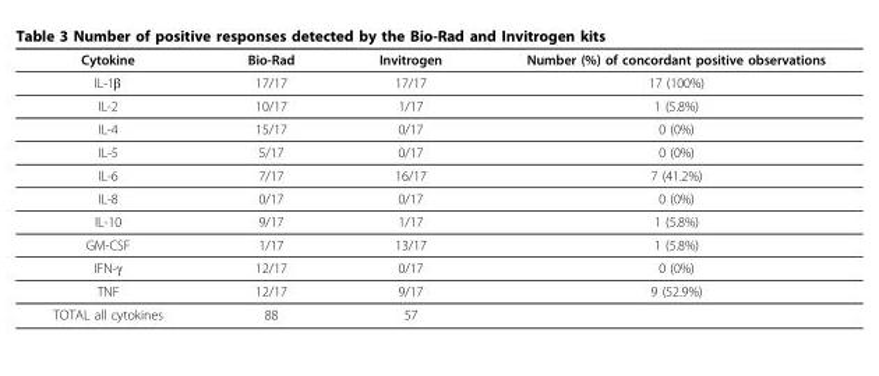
<table><thead><tr><td>Cytokine</td><td>Bio-Rad</td><td>Invitrogen</td><td>Number (%) of concordant positive observations</td></tr></thead><tbody><tr><td>IL-1β</td><td>17/17</td><td>17/17</td><td>17 (100%)</td></tr><tr><td>IL-2</td><td>10/17</td><td>1/17</td><td>1 (5.8%)</td></tr><tr><td>IL-4</td><td>15/17</td><td>0/17</td><td>0 (0%)</td></tr><tr><td>IL-5</td><td>5/17</td><td>0/17</td><td>0 (0%)</td></tr><tr><td>IL-6</td><td>7/17</td><td>16/17</td><td>7 (41.2%)</td></tr><tr><td>IL-8</td><td>0/17</td><td>0/17</td><td>0 (0%)</td></tr><tr><td>IL-10</td><td>9/17</td><td>1/17</td><td>1 (5.8%)</td></tr><tr><td>GM-CSF</td><td>1/17</td><td>13/17</td><td>1 (5.8%)</td></tr><tr><td>IFN-γ</td><td>12/17</td><td>0/17</td><td>0 (0%)</td></tr><tr><td>TNF</td><td>12/17</td><td>9/17</td><td>9 (52.9%)</td></tr><tr><td>TOTAL all cytokines</td><td>88</td><td>57</td><td></td></tr></tbody></table>